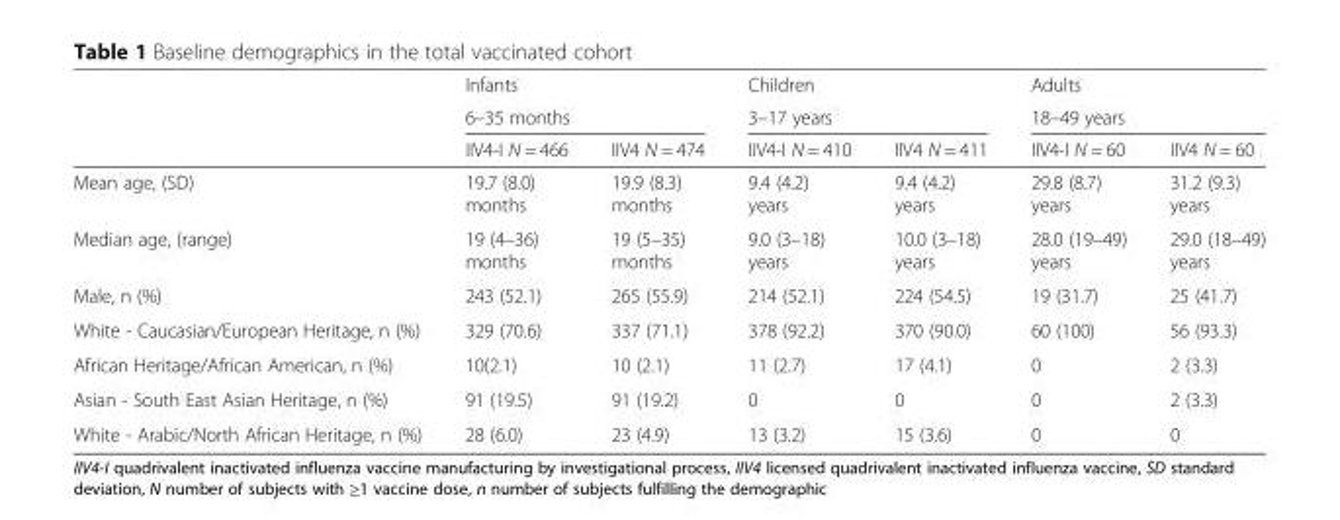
<table><thead><tr><td rowspan="3"></td><td rowspan="2" colspan="2">Infants 6–35 months</td><td rowspan="2" colspan="2">Children 3–17 years</td><td rowspan="2" colspan="2">Adults 18–49 years</td></tr><tr></tr><tr><td>IIV4-I N = 466</td><td>IIV4 N = 474</td><td>IIV4-I N = 410</td><td>IIV4 N = 411</td><td>IIV4-I N = 60</td><td>IIV4 N = 60</td></tr></thead><tbody><tr><td>Mean age, (SD)</td><td>19.7 (8.0) months</td><td>19.9 (8.3) months</td><td>9.4 (4.2) years</td><td>9.4 (4.2) years</td><td>29.8 (8.7) years</td><td>31.2 (9.3) years</td></tr><tr><td>Median age, (range)</td><td>19 (4–36) months</td><td>19 (5–35) months</td><td>9.0 (3–18) years</td><td>10.0 (3–18) years</td><td>28.0 (19–49) years</td><td>29.0 (18–49) years</td></tr><tr><td>Male, n (%)</td><td>243 (52.1)</td><td>265 (55.9)</td><td>214 (52.1)</td><td>224 (54.5)</td><td>19 (31.7)</td><td>25 (41.7)</td></tr><tr><td>White - Caucasian/European Heritage, n (%)</td><td>329 (70.6)</td><td>337 (71.1)</td><td>378 (92.2)</td><td>370 (90.0)</td><td>60 (100)</td><td>56 (93.3)</td></tr><tr><td>African Heritage/African American, n (%)</td><td>10(2.1)</td><td>10 (2.1)</td><td>11 (2.7)</td><td>17 (4.1)</td><td>0</td><td>2 (3.3)</td></tr><tr><td>Asian - South East Asian Heritage, n (%)</td><td>91 (19.5)</td><td>91 (19.2)</td><td>0</td><td>0</td><td>0</td><td>2 (3.3)</td></tr><tr><td>White - Arabic/North African Heritage, n (%)</td><td>28 (6.0)</td><td>23 (4.9)</td><td>13 (3.2)</td><td>15 (3.6)</td><td>0</td><td>0</td></tr></tbody></table>